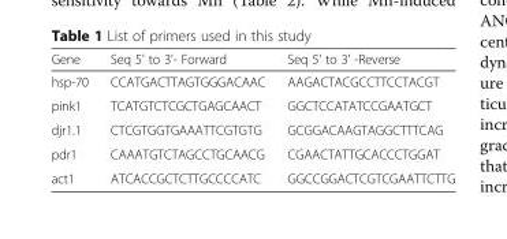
<table><thead><tr><td>Gene</td><td>Seq 5&#x27; to 3&#x27;- Forward</td><td>Seq 5&#x27; to 3&#x27; -Reverse</td></tr></thead><tbody><tr><td>hsp-70</td><td>CCATGACTTAGTGGGACAAC</td><td>AAGACTACGCCTTCCTACGT</td></tr><tr><td>pink1</td><td>TCATGTCTCGCTGAGCAACT</td><td>GGCTCCATATCCGAATGCT</td></tr><tr><td>djr1.1</td><td>CTCGTGGTGAAATTCGTGTG</td><td>GCGGACAAGTAGGCTTTCAG</td></tr><tr><td>pdr1</td><td>CAAATGTCTAGCCTGCAACG</td><td>CGAACTATTGCACCCTGGAT</td></tr><tr><td>act1</td><td>ATCACCGCTCTTGCCCCATC</td><td>GGCCGGACTCGTCGAATTCTTG</td></tr></tbody></table>